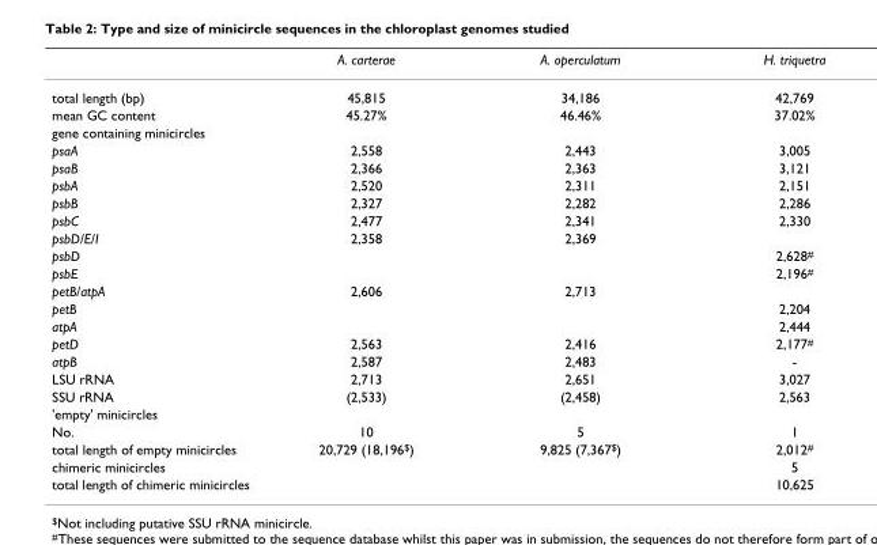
<table><thead><tr><td></td><td>A. carterae</td><td>A. operculatum</td><td>H. triquetra</td></tr></thead><tbody><tr><td>total length (bp)</td><td>45,815</td><td>34,186</td><td>42,769</td></tr><tr><td>mean GC content</td><td>45.27%</td><td>46.46%</td><td>37.02%</td></tr><tr><td colspan="4">gene containing minicircles</td></tr><tr><td>psaA</td><td>2,558</td><td>2,443</td><td>3,005</td></tr><tr><td>psaB</td><td>2,366</td><td>2,363</td><td>3,121</td></tr><tr><td>psbA</td><td>2,520</td><td>2,311</td><td>2,151</td></tr><tr><td>psbB</td><td>2,327</td><td>2,282</td><td>2,286</td></tr><tr><td>psbC</td><td>2,477</td><td>2,341</td><td>2,330</td></tr><tr><td>psbD/E/I</td><td>2,358</td><td>2,369</td><td></td></tr><tr><td>psbD</td><td></td><td></td><td>2,628#</td></tr><tr><td>psbE</td><td></td><td></td><td>2,196#</td></tr><tr><td>petB/atpA</td><td>2,606</td><td>2,713</td><td></td></tr><tr><td>petB</td><td></td><td></td><td>2,204</td></tr><tr><td>atpA</td><td></td><td></td><td>2,444</td></tr><tr><td>petD</td><td>2,563</td><td>2,416</td><td>2,177#</td></tr><tr><td>atpB</td><td>2,587</td><td>2,483</td><td>-</td></tr><tr><td>LSU rRNA</td><td>2,713</td><td>2,651</td><td>3,027</td></tr><tr><td>SSU rRNA</td><td>(2,533)</td><td>(2,458)</td><td>2,563</td></tr><tr><td colspan="4">&#x27;empty&#x27; minicircles</td></tr><tr><td>No.</td><td>10</td><td>5</td><td>1</td></tr><tr><td>total length of empty minicircles</td><td>20,729 (18,196$)</td><td>9,825 (7,367$)</td><td>2,012#</td></tr><tr><td>chimeric minicircles</td><td></td><td></td><td>5</td></tr><tr><td>total length of chimeric minicircles</td><td></td><td></td><td>10,625</td></tr></tbody></table>